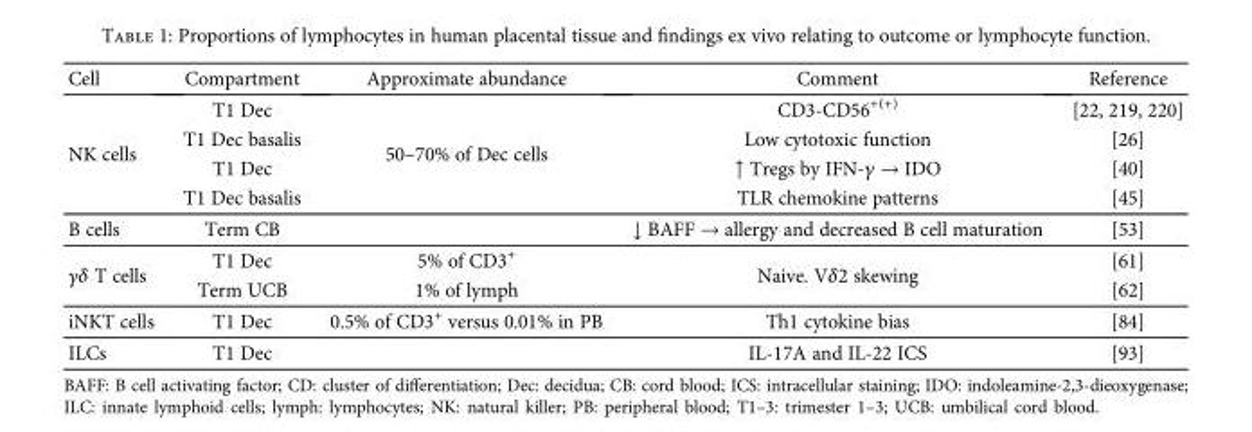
<table><thead><tr><td>Cell</td><td>Compartment</td><td>Approximate abundance</td><td>Comment</td><td>Reference</td></tr></thead><tbody><tr><td rowspan="4">NK cells</td><td>T1 Dec</td><td rowspan="4">50–70% of Dec cells</td><td>CD3-CD56<sup>+(+)</sup></td><td>[22, 219, 220]</td></tr><tr><td>T1 Dec basalis</td><td>Low cytotoxic function</td><td>[26]</td></tr><tr><td>T1 Dec</td><td>↑ Tregs by IFN-γ → IDO</td><td>[40]</td></tr><tr><td>T1 Dec basalis</td><td>TLR chemokine patterns</td><td>[45]</td></tr><tr><td>B cells</td><td>Term CB</td><td></td><td>↓ BAFF → allergy and decreased B cell maturation</td><td>[53]</td></tr><tr><td rowspan="2">γδ T cells</td><td>T1 Dec</td><td>5% of CD3<sup>+</sup></td><td rowspan="2">Naive. Vδ2 skewing</td><td>[61]</td></tr><tr><td>Term UCB</td><td>1% of lymph</td><td>[62]</td></tr><tr><td>iNKT cells</td><td>T1 Dec</td><td>0.5% of CD3<sup>+</sup> versus 0.01% in PB</td><td>Th1 cytokine bias</td><td>[84]</td></tr><tr><td>ILCs</td><td>T1 Dec</td><td></td><td>IL-17A and IL-22 ICS</td><td>[93]</td></tr></tbody></table>